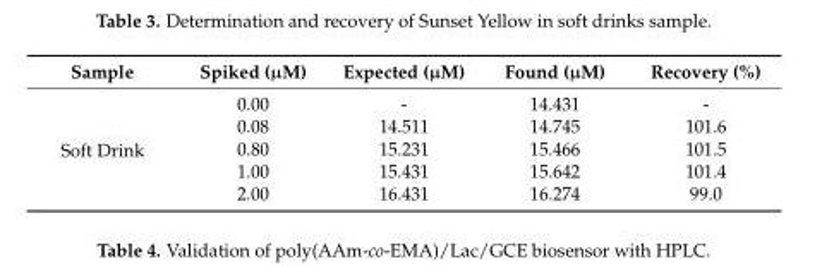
<table><thead><tr><td>Sample</td><td>Spiked (µM)</td><td>Expected (µM)</td><td>Found (µM)</td><td>Recovery (%)</td></tr></thead><tbody><tr><td rowspan="5">Soft Drink</td><td>0.00</td><td>-</td><td>14.431</td><td>-</td></tr><tr><td>0.08</td><td>14.511</td><td>14.745</td><td>101.6</td></tr><tr><td>0.80</td><td>15.231</td><td>15.466</td><td>101.5</td></tr><tr><td>1.00</td><td>15.431</td><td>15.642</td><td>101.4</td></tr><tr><td>2.00</td><td>16.431</td><td>16.274</td><td>99.0</td></tr></tbody></table>